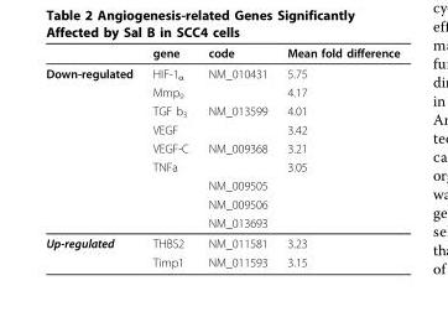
<table><thead><tr><td></td><td>gene</td><td>code</td><td>Mean fold difference</td></tr></thead><tbody><tr><td rowspan="9">Down-regulated</td><td>HIF-1<sub>α</sub></td><td>NM_010431</td><td>5.75</td></tr><tr><td>Mmp<sub>9</sub></td><td></td><td>4.17</td></tr><tr><td>TGF b<sub>3</sub></td><td>NM_013599</td><td>4.01</td></tr><tr><td>VEGF</td><td></td><td>3.42</td></tr><tr><td>VEGF-C</td><td>NM_009368</td><td>3.21</td></tr><tr><td>TNFa</td><td></td><td>3.05</td></tr><tr><td></td><td>NM_009505</td><td></td></tr><tr><td></td><td>NM_009506</td><td></td></tr><tr><td></td><td>NM_013693</td><td></td></tr><tr><td rowspan="2">Up-regulated</td><td>THBS2</td><td>NM_011581</td><td>3.23</td></tr><tr><td>Timp1</td><td>NM_011593</td><td>3.15</td></tr></tbody></table>